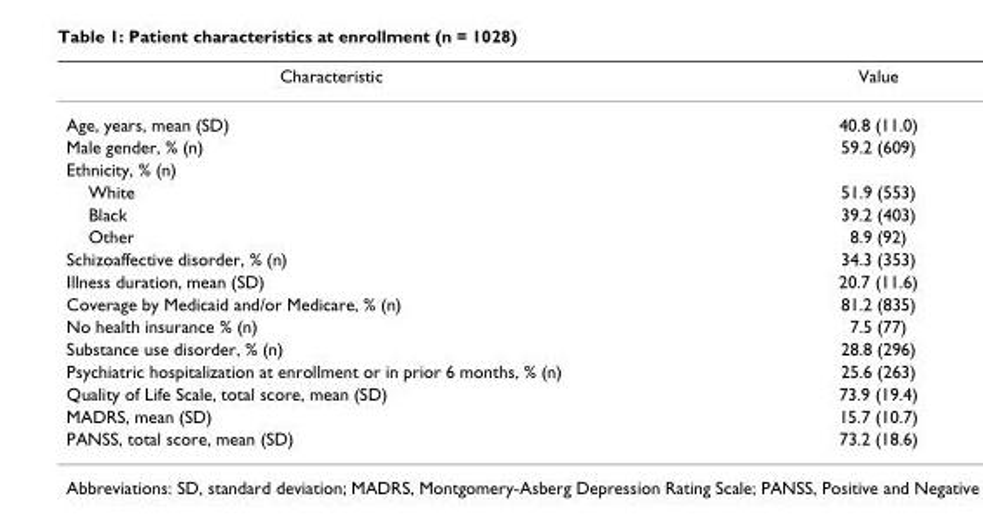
<table><thead><tr><td>Characteristic</td><td>Value</td></tr></thead><tbody><tr><td>Age, years, mean (SD)</td><td>40.8 (11.0)</td></tr><tr><td>Male gender, % (n)</td><td>59.2 (609)</td></tr><tr><td colspan="2">Ethnicity, % (n)</td></tr><tr><td>White</td><td>51.9 (553)</td></tr><tr><td>Black</td><td>39.2 (403)</td></tr><tr><td>Other</td><td>8.9 (92)</td></tr><tr><td>Schizoaffective disorder, % (n)</td><td>34.3 (353)</td></tr><tr><td>Illness duration, mean (SD)</td><td>20.7 (11.6)</td></tr><tr><td>Coverage by Medicaid and/or Medicare, % (n)</td><td>81.2 (835)</td></tr><tr><td>No health insurance % (n)</td><td>7.5 (77)</td></tr><tr><td>Substance use disorder, % (n)</td><td>28.8 (296)</td></tr><tr><td>Psychiatric hospitalization at enrollment or in prior 6 months, % (n)</td><td>25.6 (263)</td></tr><tr><td>Quality of Life Scale, total score, mean (SD)</td><td>73.9 (19.4)</td></tr><tr><td>MADRS, mean (SD)</td><td>15.7 (10.7)</td></tr><tr><td>PANSS, total score, mean (SD)</td><td>73.2 (18.6)</td></tr></tbody></table>